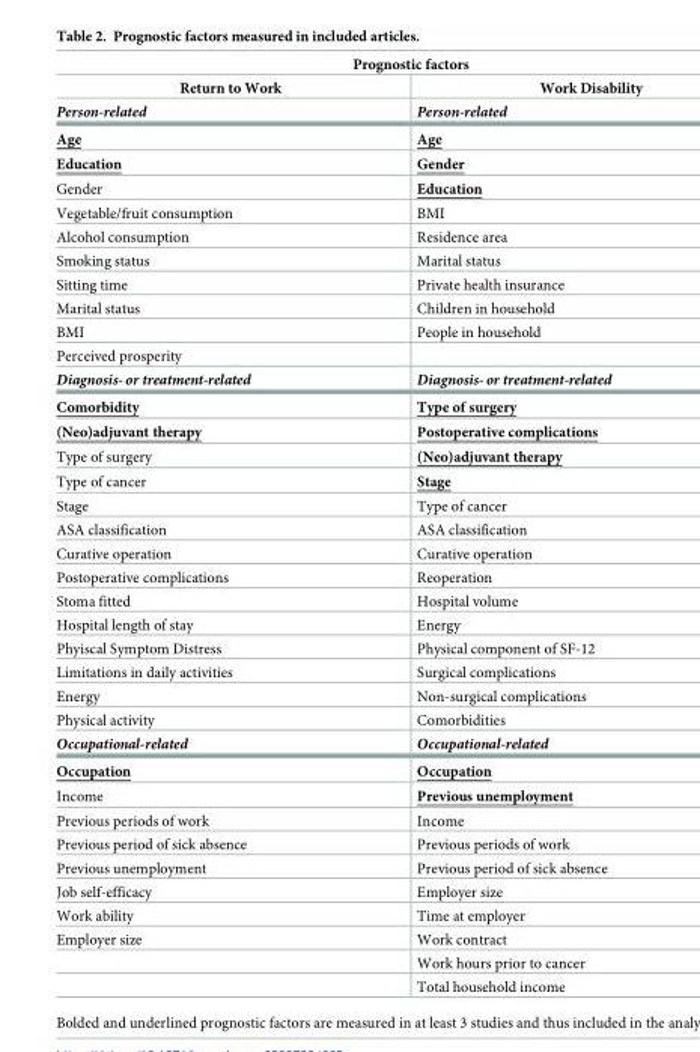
<table><thead><tr><td colspan="2">Prognostic factors</td></tr><tr><td>Return to Work</td><td>Work Disability</td></tr></thead><tbody><tr><td>Person-related</td><td>Person-related</td></tr><tr><td>Age</td><td>Age</td></tr><tr><td>Education</td><td>Gender</td></tr><tr><td>Gender</td><td>Education</td></tr><tr><td>Vegetable/fruit consumption</td><td>BMI</td></tr><tr><td>Alcohol consumption</td><td>Residence area</td></tr><tr><td>Smoking status</td><td>Marital status</td></tr><tr><td>Sitting time</td><td>Private health insurance</td></tr><tr><td>Marital status</td><td>Children in household</td></tr><tr><td>BMI</td><td>People in household</td></tr><tr><td colspan="2">Perceived prosperity</td></tr><tr><td>Diagnosis-or treatment-related</td><td>Diagnosis-or treatment-related</td></tr><tr><td>Comorbidity</td><td>Type of surgery</td></tr><tr><td>(Neo)adjuvant therapy</td><td>Postoperative complications</td></tr><tr><td>Type of surgery</td><td>(Neo)adjuvant therapy</td></tr><tr><td>Type of cancer</td><td>Stage</td></tr><tr><td>Stage</td><td>Type of cancer</td></tr><tr><td>ASA classification</td><td>ASA classification</td></tr><tr><td>Curative operation</td><td>Curative operation</td></tr><tr><td>Postoperative complications</td><td>Reoperation</td></tr><tr><td>Stoma fitted</td><td>Hospital volume</td></tr><tr><td>Hospital length of stay</td><td>Energy</td></tr><tr><td>Phyiscal Symptom Distress</td><td>Physical component of SF-12</td></tr><tr><td>Limitations in daily activities</td><td>Surgical complications</td></tr><tr><td>Energy</td><td>Non-surgical complications</td></tr><tr><td>Physical activity</td><td>Comorbidities</td></tr><tr><td>Occupational-related</td><td>Occupational-related</td></tr><tr><td>Occupation</td><td>Occupation</td></tr><tr><td>Income</td><td>Previous unemployment</td></tr><tr><td>Previous periods of work</td><td>Income</td></tr><tr><td>Previous period of sick absence</td><td>Previous periods of work</td></tr><tr><td>Previous unemployment</td><td>Previous period of sick absence</td></tr><tr><td>Job self-efficacy</td><td>Employer size</td></tr><tr><td>Work ability</td><td>Time at employer</td></tr><tr><td rowspan="3">Employer size</td><td>Work contract</td></tr><tr><td>Work hours prior to cancer</td></tr><tr><td>Total household income</td></tr></tbody></table>